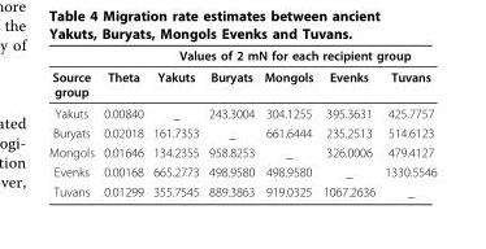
<table><thead><tr><td rowspan="2">Source group</td><td rowspan="2">Theta</td><td colspan="5">Values of 2 mN for each recipient group</td></tr><tr><td>Yakuts</td><td>Buryats</td><td>Mongols</td><td>Evenks</td><td>Tuvans</td></tr></thead><tbody><tr><td>Yakuts</td><td>0.00840</td><td>_</td><td>243.3004</td><td>304.1255</td><td>395.3631</td><td>425.7757</td></tr><tr><td>Buryats</td><td>0.02018</td><td>161.7353</td><td>_</td><td>661.6444</td><td>235.2513</td><td>514.6123</td></tr><tr><td>Mongols</td><td>0.01646</td><td>134.2355</td><td>958.8253</td><td>_</td><td>326.0006</td><td>479.4127</td></tr><tr><td>Evenks</td><td>0.00168</td><td>665.2773</td><td>498.9580</td><td>498.9580</td><td>_</td><td>1330.5546</td></tr><tr><td>Tuvans</td><td>0.01299</td><td>355.7545</td><td>889.3863</td><td>919.0325</td><td>1067.2636</td><td>_</td></tr></tbody></table>